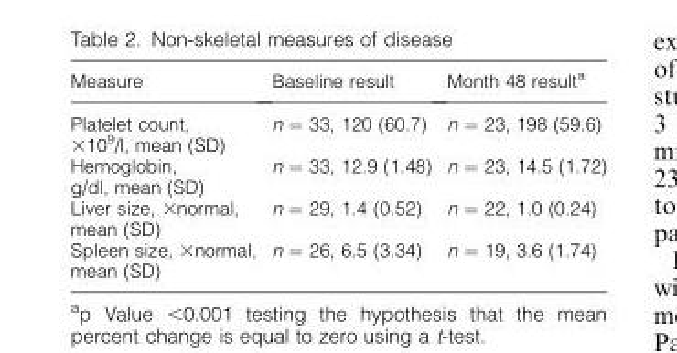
<table><thead><tr><td>Measure</td><td>Baseline result</td><td>Month 48 result<sup>a</sup></td></tr></thead><tbody><tr><td>Platelet count, ×10<sup>9</sup>/l, mean (SD)</td><td>n = 33, 120 (60.7)</td><td>n = 23, 198 (59.6)</td></tr><tr><td>Hemoglobin, g/dl, mean (SD)</td><td>n = 33, 12.9 (1.48)</td><td>n = 23, 14.5 (1.72)</td></tr><tr><td>Liver size, ×normal, mean (SD)</td><td>n = 29, 1.4 (0.52)</td><td>n = 22, 1.0 (0.24)</td></tr><tr><td>Spleen size, ×normal, mean (SD)</td><td>n = 26, 6.5 (3.34)</td><td>n = 19, 3.6 (1.74)</td></tr></tbody></table>